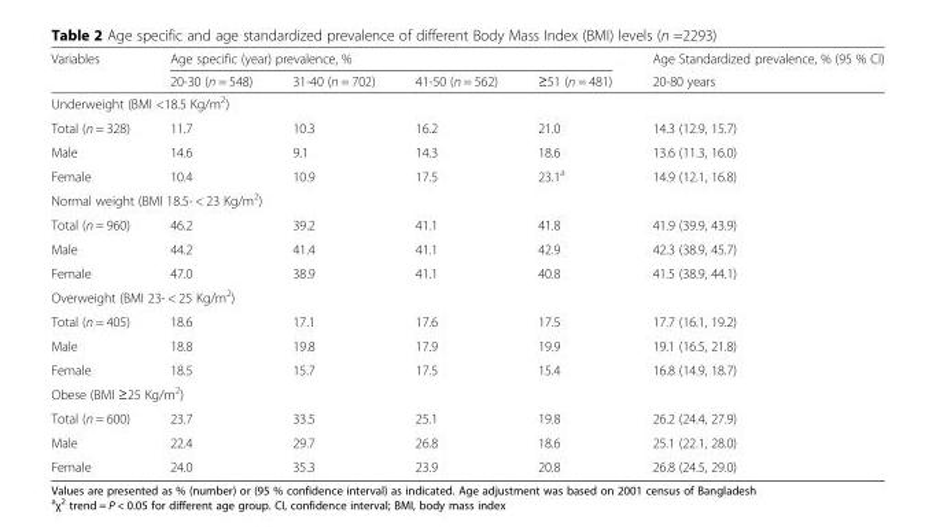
<table><thead><tr><td rowspan="2">Variables</td><td colspan="4">Age specific (year) prevalence, %</td><td rowspan="2">Age Standardized prevalence, % (95 % CI) 20-80 years</td></tr><tr><td>20-30 (n = 548)</td><td>31-40 (n = 702)</td><td>41-50 (n = 562)</td><td>≥51 (n = 481)</td></tr></thead><tbody><tr><td colspan="6">Underweight (BMI &lt;18.5 Kg/m<sup>2</sup>)</td></tr><tr><td>Total (n = 328)</td><td>11.7</td><td>10.3</td><td>16.2</td><td>21.0</td><td>14.3 (12.9, 15.7)</td></tr><tr><td>Male</td><td>14.6</td><td>9.1</td><td>14.3</td><td>18.6</td><td>13.6 (11.3, 16.0)</td></tr><tr><td>Female</td><td>10.4</td><td>10.9</td><td>17.5</td><td>23.1<sup>a</sup></td><td>14.9 (12.1, 16.8)</td></tr><tr><td colspan="6">Normal weight (BMI 18.5- &lt; 23 Kg/m<sup>2</sup>)</td></tr><tr><td>Total (n = 960)</td><td>46.2</td><td>39.2</td><td>41.1</td><td>41.8</td><td>41.9 (39.9, 43.9)</td></tr><tr><td>Male</td><td>44.2</td><td>41.4</td><td>41.1</td><td>42.9</td><td>42.3 (38.9, 45.7)</td></tr><tr><td>Female</td><td>47.0</td><td>38.9</td><td>41.1</td><td>40.8</td><td>41.5 (38.9, 44.1)</td></tr><tr><td colspan="6">Overweight (BMI 23- &lt; 25 Kg/m<sup>2</sup>)</td></tr><tr><td>Total (n = 405)</td><td>18.6</td><td>17.1</td><td>17.6</td><td>17.5</td><td>17.7 (16.1, 19.2)</td></tr><tr><td>Male</td><td>18.8</td><td>19.8</td><td>17.9</td><td>19.9</td><td>19.1 (16.5, 21.8)</td></tr><tr><td>Female</td><td>18.5</td><td>15.7</td><td>17.5</td><td>15.4</td><td>16.8 (14.9, 18.7)</td></tr><tr><td colspan="6">Obese (BMI ≥25 Kg/m<sup>2</sup>)</td></tr><tr><td>Total (n = 600)</td><td>23.7</td><td>33.5</td><td>25.1</td><td>19.8</td><td>26.2 (24.4, 27.9)</td></tr><tr><td>Male</td><td>22.4</td><td>29.7</td><td>26.8</td><td>18.6</td><td>25.1 (22.1, 28.0)</td></tr><tr><td>Female</td><td>24.0</td><td>35.3</td><td>23.9</td><td>20.8</td><td>26.8 (24.5, 29.0)</td></tr></tbody></table>